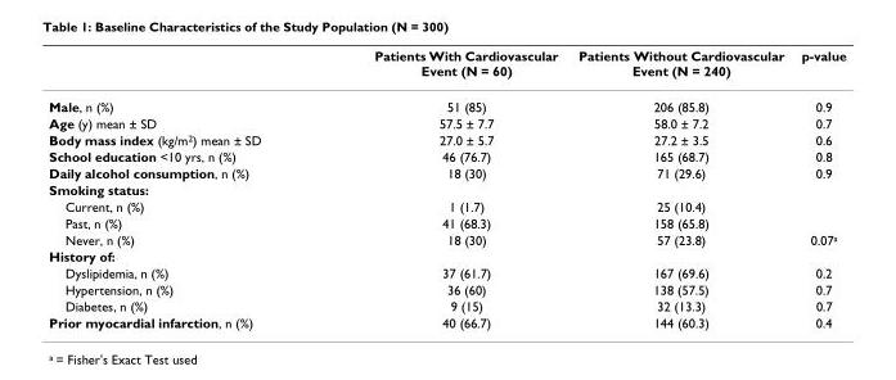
<table><thead><tr><td></td><td>Patients With Cardiovascular Event (N = 60)</td><td>Patients Without Cardiovascular Event (N = 240)</td><td>p-value</td></tr></thead><tbody><tr><td>Male, n (%)</td><td>51 (85)</td><td>206 (85.8)</td><td>0.9</td></tr><tr><td>Age (y) mean ± SD</td><td>57.5 ± 7.7</td><td>58.0 ± 7.2</td><td>0.7</td></tr><tr><td>Body mass index (kg/m<sup>2</sup>) mean ± SD</td><td>27.0 ± 5.7</td><td>27.2 ± 3.5</td><td>0.6</td></tr><tr><td>School education &lt;10 yrs, n (%)</td><td>46 (76.7)</td><td>165 (68.7)</td><td>0.8</td></tr><tr><td>Daily alcohol consumption, n (%)</td><td>18 (30)</td><td>71 (29.6)</td><td>0.9</td></tr><tr><td colspan="4">Smoking status:</td></tr><tr><td>Current, n (%)</td><td>1 (1.7)</td><td>25 (10.4)</td><td></td></tr><tr><td>Past, n (%)</td><td>41 (68.3)</td><td>158 (65.8)</td><td></td></tr><tr><td>Never, n (%)</td><td>18 (30)</td><td>57 (23.8)</td><td>0.07<sup>a</sup></td></tr><tr><td colspan="4">History of:</td></tr><tr><td>Dyslipidemia, n (%)</td><td>37 (61.7)</td><td>167 (69.6)</td><td>0.2</td></tr><tr><td>Hypertension, n (%)</td><td>36 (60)</td><td>138 (57.5)</td><td>0.7</td></tr><tr><td>Diabetes, n (%)</td><td>9 (15)</td><td>32 (13.3)</td><td>0.7</td></tr><tr><td>Prior myocardial infarction, n (%)</td><td>40 (66.7)</td><td>144 (60.3)</td><td>0.4</td></tr></tbody></table>